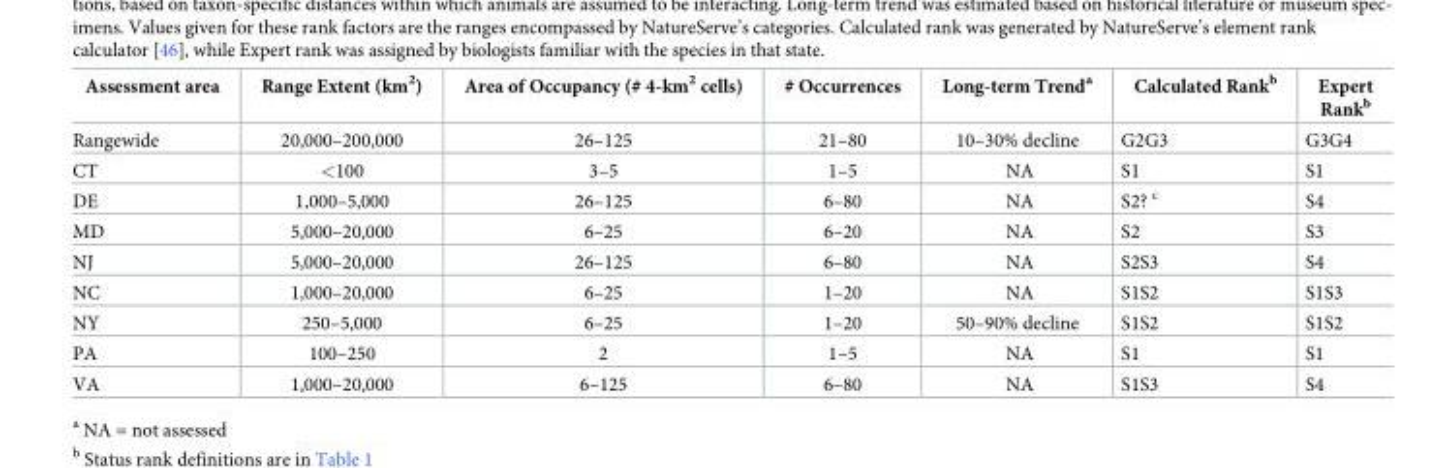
<table><thead><tr><td>Assessment area</td><td>Range Extent (km<sup>2</sup>)</td><td>Area of Occupancy (# 4-km<sup>2</sup> cells)</td><td># Occurrences</td><td>Long-term Trend<sup>a</sup></td><td>Calculated Rank<sup>b</sup></td><td>Expert Rank<sup>b</sup></td></tr></thead><tbody><tr><td>Rangewide</td><td>20,000–200,000</td><td>26–125</td><td>21–80</td><td>10–30% decline</td><td>G2G3</td><td>G3G4</td></tr><tr><td>CT</td><td>&lt;100</td><td>3–5</td><td>1–5</td><td>NA</td><td>S1</td><td>S1</td></tr><tr><td>DE</td><td>1,000–5,000</td><td>26–125</td><td>6–80</td><td>NA</td><td>S2? <sup>c</sup></td><td>S4</td></tr><tr><td>MD</td><td>5,000–20,000</td><td>6–25</td><td>6–20</td><td>NA</td><td>S2</td><td>S3</td></tr><tr><td>NJ</td><td>5,000–20,000</td><td>26–125</td><td>6–80</td><td>NA</td><td>S2S3</td><td>S4</td></tr><tr><td>NC</td><td>1,000–20,000</td><td>6–25</td><td>1–20</td><td>NA</td><td>S1S2</td><td>S1S3</td></tr><tr><td>NY</td><td>250–5,000</td><td>6–25</td><td>1–20</td><td>50–90% decline</td><td>S1S2</td><td>S1S2</td></tr><tr><td>PA</td><td>100–250</td><td>2</td><td>1–5</td><td>NA</td><td>S1</td><td>S1</td></tr><tr><td>VA</td><td>1,000–20,000</td><td>6–125</td><td>6–80</td><td>NA</td><td>S1S3</td><td>S4</td></tr></tbody></table>